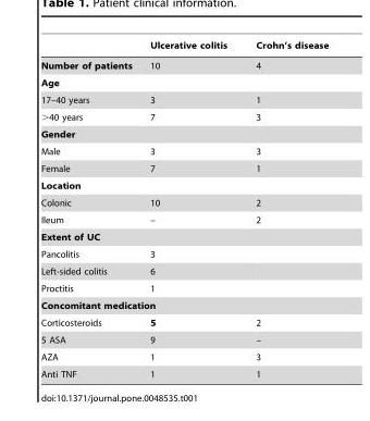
<table><thead><tr><td></td><td>Ulcerative colitis</td><td>Crohn’s disease</td></tr></thead><tbody><tr><td>Number of patients</td><td>10</td><td>4</td></tr><tr><td colspan="3">Age</td></tr><tr><td>17–40 years</td><td>3</td><td>1</td></tr><tr><td>&gt;40 years</td><td>7</td><td>3</td></tr><tr><td colspan="3">Gender</td></tr><tr><td>Male</td><td>3</td><td>3</td></tr><tr><td>Female</td><td>7</td><td>1</td></tr><tr><td colspan="3">Location</td></tr><tr><td>Colonic</td><td>10</td><td>2</td></tr><tr><td>Ileum</td><td>–</td><td>2</td></tr><tr><td colspan="3">Extent of UC</td></tr><tr><td>Pancolitis</td><td>3</td><td></td></tr><tr><td>Left-sided colitis</td><td>6</td><td></td></tr><tr><td>Proctitis</td><td>1</td><td></td></tr><tr><td colspan="3">Concomitant medication</td></tr><tr><td>Corticosteroids</td><td>5</td><td>2</td></tr><tr><td>5 ASA</td><td>9</td><td>–</td></tr><tr><td>AZA</td><td>1</td><td>3</td></tr><tr><td>Anti TNF</td><td>1</td><td>1</td></tr></tbody></table>